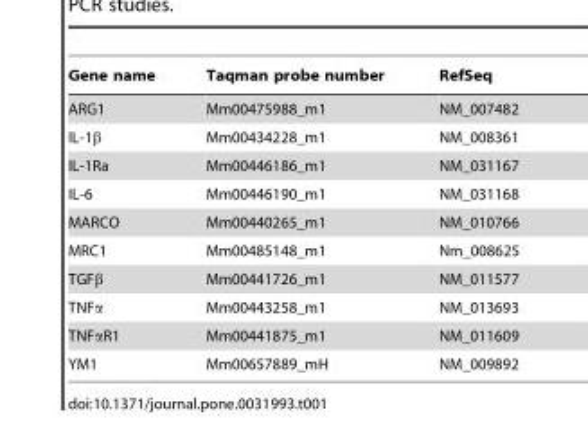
<table><thead><tr><td>Gene name</td><td>Taqman probe number</td><td>RefSeq</td></tr></thead><tbody><tr><td>ARG1</td><td>Mm00475988_m1</td><td>NM_007482</td></tr><tr><td>IL-1β</td><td>Mm00434228_m1</td><td>NM_008361</td></tr><tr><td>IL-1Ra</td><td>Mm00446186_m1</td><td>NM_031167</td></tr><tr><td>IL-6</td><td>Mm00446190_m1</td><td>NM_031168</td></tr><tr><td>MARCO</td><td>Mm00440265_m1</td><td>NM_010766</td></tr><tr><td>MRC1</td><td>Mm00485148_m1</td><td>Nm_008625</td></tr><tr><td>TGFβ</td><td>Mm00441726_m1</td><td>NM_011577</td></tr><tr><td>TNFα</td><td>Mm00443258_m1</td><td>NM_013693</td></tr><tr><td>TNFαR1</td><td>Mm00441875_m1</td><td>NM_011609</td></tr><tr><td>YM1</td><td>Mm00657889_mH</td><td>NM_009892</td></tr></tbody></table>